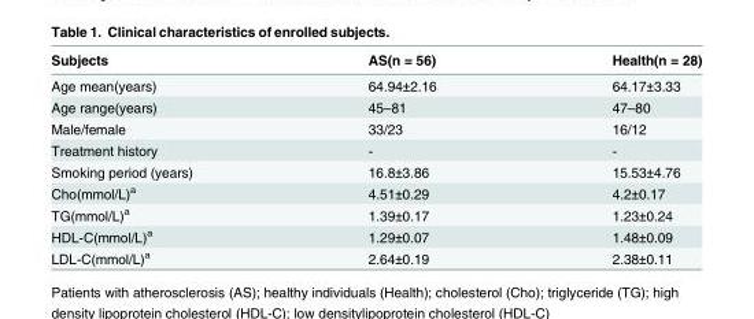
<table><thead><tr><td>Subjects</td><td>AS(n = 56)</td><td>Health(n = 28)</td></tr></thead><tbody><tr><td>Age mean(years)</td><td>64.94±2.16</td><td>64.17±3.33</td></tr><tr><td>Age range(years)</td><td>45–81</td><td>47–80</td></tr><tr><td>Male/female</td><td>33/23</td><td>16/12</td></tr><tr><td>Treatment history</td><td>-</td><td>-</td></tr><tr><td>Smoking period (years)</td><td>16.8±3.86</td><td>15.53±4.76</td></tr><tr><td>Cho(mmol/L)<sup>a</sup></td><td>4.51±0.29</td><td>4.2±0.17</td></tr><tr><td>TG(mmol/L)<sup>a</sup></td><td>1.39±0.17</td><td>1.23±0.24</td></tr><tr><td>HDL-C(mmol/L)<sup>a</sup></td><td>1.29±0.07</td><td>1.48±0.09</td></tr><tr><td>LDL-C(mmol/L)<sup>a</sup></td><td>2.64±0.19</td><td>2.38±0.11</td></tr></tbody></table>